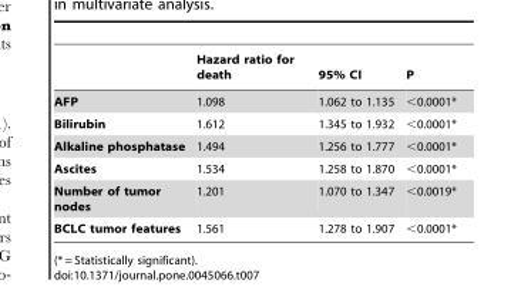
<table><thead><tr><td></td><td>Hazard ratio for death</td><td>95% CI</td><td>P</td></tr></thead><tbody><tr><td>AFP</td><td>1.098</td><td>1.062 to 1.135</td><td>&lt;0.0001*</td></tr><tr><td>Bilirubin</td><td>1.612</td><td>1.345 to 1.932</td><td>&lt;0.0001*</td></tr><tr><td>Alkaline phosphatase</td><td>1.494</td><td>1.256 to 1.777</td><td>&lt;0.0001*</td></tr><tr><td>Ascites</td><td>1.534</td><td>1.258 to 1.870</td><td>&lt;0.0001*</td></tr><tr><td>Number of tumor nodes</td><td>1.201</td><td>1.070 to 1.347</td><td>&lt;0.0019*</td></tr><tr><td>BCLC tumor features</td><td>1.561</td><td>1.278 to 1.907</td><td>&lt;0.0001*</td></tr></tbody></table>